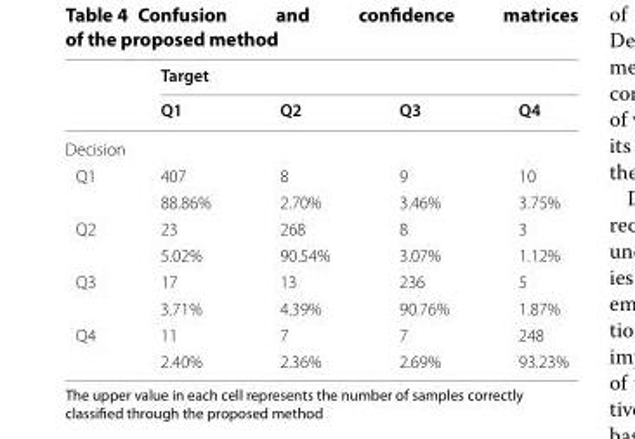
<table><thead><tr><td rowspan="2"></td><td colspan="4">Target</td></tr><tr><td>Q1</td><td>Q2</td><td>Q3</td><td>Q4</td></tr></thead><tbody><tr><td colspan="5">Decision</td></tr><tr><td rowspan="2">Q1</td><td>407</td><td>8</td><td>9</td><td>10</td></tr><tr><td>88.86%</td><td>2.70%</td><td>3.46%</td><td>3.75%</td></tr><tr><td rowspan="2">Q2</td><td>23</td><td>268</td><td>8</td><td>3</td></tr><tr><td>5.02%</td><td>90.54%</td><td>3.07%</td><td>1.12%</td></tr><tr><td rowspan="2">Q3</td><td>17</td><td>13</td><td>236</td><td>5</td></tr><tr><td>3.71%</td><td>4.39%</td><td>90.76%</td><td>1.87%</td></tr><tr><td rowspan="2">Q4</td><td>11</td><td>7</td><td>7</td><td>248</td></tr><tr><td>2.40%</td><td>2.36%</td><td>2.69%</td><td>93.23%</td></tr></tbody></table>